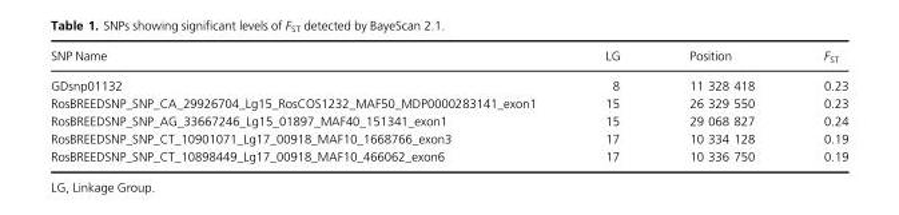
<table><thead><tr><td>SNP Name</td><td>LG</td><td>Position</td><td>F<sub>ST</sub></td></tr></thead><tbody><tr><td>GDsnp01132</td><td>8</td><td>11 328 418</td><td>0.23</td></tr><tr><td>RosBREEDSNP_SNP_CA_29926704_Lg15_RosCOS1232_MAF50_MDP0000283141_exon1</td><td>15</td><td>26 329 550</td><td>0.23</td></tr><tr><td>RosBREEDSNP_SNP_AG_33667246_Lg15_01897_MAF40_151341_exon1</td><td>15</td><td>29 068 827</td><td>0.24</td></tr><tr><td>RosBREEDSNP_SNP_CT_10901071_Lg17_00918_MAF10_1668766_exon3</td><td>17</td><td>10 334 128</td><td>0.19</td></tr><tr><td>RosBREEDSNP_SNP_CT_10898449_Lg17_00918_MAF10_466062_exon6</td><td>17</td><td>10 336 750</td><td>0.19</td></tr></tbody></table>